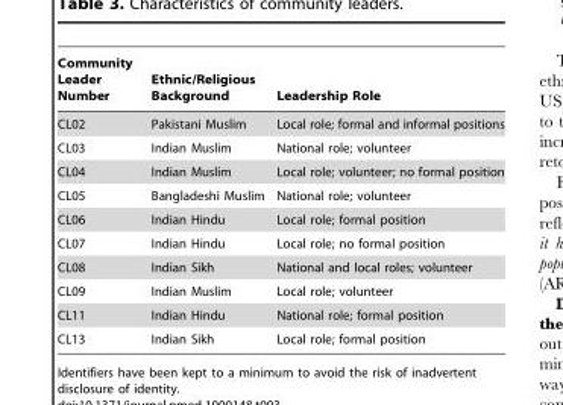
<table><thead><tr><td>Community Leader Number</td><td>Ethnic/Religious Background</td><td>Leadership Role</td></tr></thead><tbody><tr><td>CL02</td><td>Pakistani Muslim</td><td>Local role; formal and informal positions</td></tr><tr><td>CL03</td><td>Indian Muslim</td><td>National role; volunteer</td></tr><tr><td>CL04</td><td>Indian Muslim</td><td>Local role; volunteer; no formal position</td></tr><tr><td>CL05</td><td>Bangladeshi Muslim</td><td>National role; volunteer</td></tr><tr><td>CL06</td><td>Indian Hindu</td><td>Local role; formal position</td></tr><tr><td>CL07</td><td>Indian Hindu</td><td>Local role; no formal position</td></tr><tr><td>CL08</td><td>Indian Sikh</td><td>National and local roles; volunteer</td></tr><tr><td>CL09</td><td>Indian Muslim</td><td>Local role; volunteer</td></tr><tr><td>CL11</td><td>Indian Hindu</td><td>National role; formal position</td></tr><tr><td>CL13</td><td>Indian Sikh</td><td>Local role; formal position</td></tr></tbody></table>